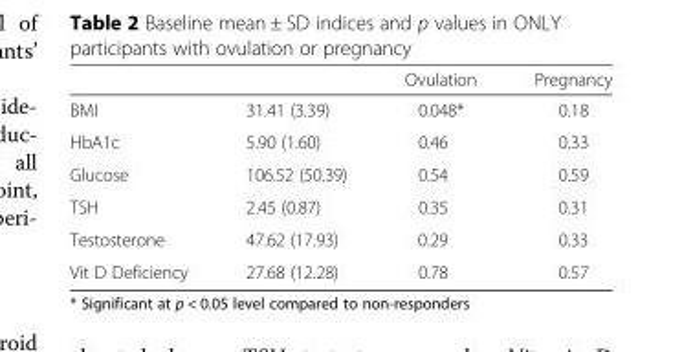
<table><thead><tr><td></td><td></td><td>Ovulation</td><td>Pregnancy</td></tr></thead><tbody><tr><td>BMI</td><td>31.41 (3.39)</td><td>0.048*</td><td>0.18</td></tr><tr><td>HbA1c</td><td>5.90 (1.60)</td><td>0.46</td><td>0.33</td></tr><tr><td>Glucose</td><td>106.52 (50.39)</td><td>0.54</td><td>0.59</td></tr><tr><td>TSH</td><td>2.45 (0.87)</td><td>0.35</td><td>0.31</td></tr><tr><td>Testosterone</td><td>47.62 (17.93)</td><td>0.29</td><td>0.33</td></tr><tr><td>Vit D Deficiency</td><td>27.68 (12.28)</td><td>0.78</td><td>0.57</td></tr></tbody></table>